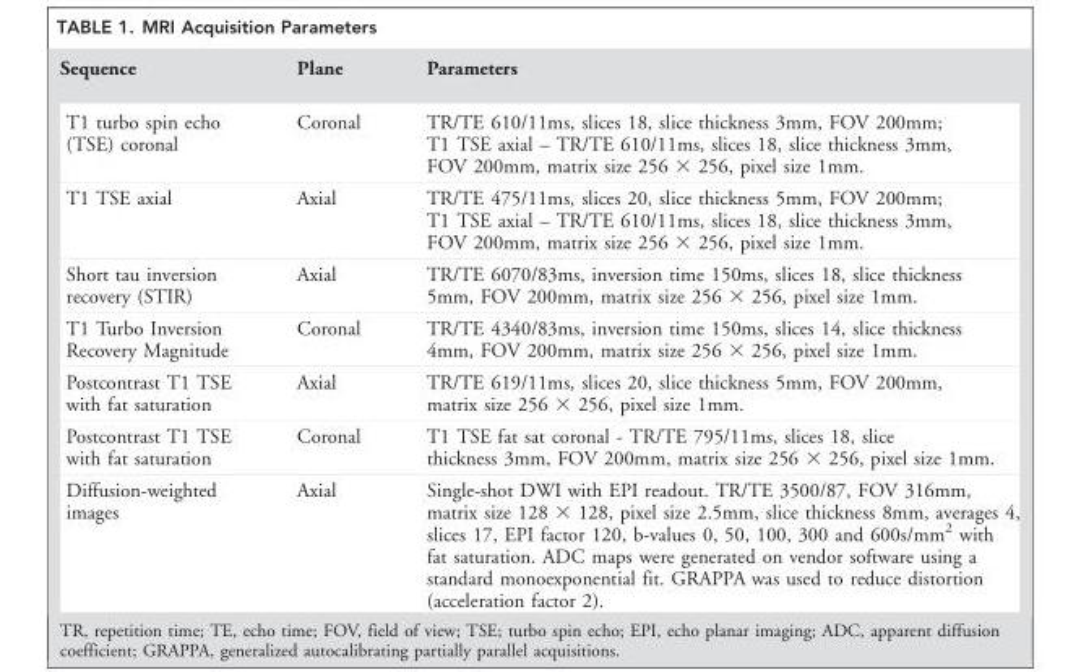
<table><thead><tr><td>Sequence</td><td>Plane</td><td>Parameters</td></tr></thead><tbody><tr><td>T1 turbo spin echo (TSE) coronal</td><td>Coronal</td><td>TR/TE 610/11ms, slices 18, slice thickness 3mm, FOV 200mm; T1 TSE axial – TR/TE 610/11ms, slices 18, slice thickness 3mm, FOV 200mm, matrix size 256 × 256, pixel size 1mm.</td></tr><tr><td>T1 TSE axial</td><td>Axial</td><td>TR/TE 475/11ms, slices 20, slice thickness 5mm, FOV 200mm; T1 TSE axial – TR/TE 610/11ms, slices 18, slice thickness 3mm, FOV 200mm, matrix size 256 × 256, pixel size 1mm.</td></tr><tr><td>Short tau inversion recovery (STIR)</td><td>Axial</td><td>TR/TE 6070/83ms, inversion time 150ms, slices 18, slice thickness 5mm, FOV 200mm, matrix size 256 × 256, pixel size 1mm.</td></tr><tr><td>T1 Turbo Inversion Recovery Magnitude</td><td>Coronal</td><td>TR/TE 4340/83ms, inversion time 150ms, slices 14, slice thickness 4mm, FOV 200mm, matrix size 256 × 256, pixel size 1mm.</td></tr><tr><td>Postcontrast T1 TSE with fat saturation</td><td>Axial</td><td>TR/TE 619/11ms, slices 20, slice thickness 5mm, FOV 200mm, matrix size 256 × 256, pixel size 1mm.</td></tr><tr><td>Postcontrast T1 TSE with fat saturation</td><td>Coronal</td><td>T1 TSE fat sat coronal - TR/TE 795/11ms, slices 18, slice thickness 3mm, FOV 200mm, matrix size 256 × 256, pixel size 1mm.</td></tr><tr><td>Diffusion-weighted images</td><td>Axial</td><td>Single-shot DWI with EPI readout. TR/TE 3500/87, FOV 316mm, matrix size 128 × 128, pixel size 2.5mm, slice thickness 8mm, averages 4, slices 17, EPI factor 120, b-values 0, 50, 100, 300 and 600s/mm<sup>2</sup> with fat saturation. ADC maps were generated on vendor software using a standard monoexponential fit. GRAPPA was used to reduce distortion (acceleration factor 2).</td></tr></tbody></table>